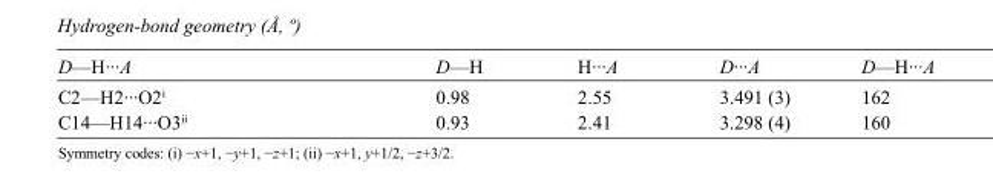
<table><tbody><tr><td>D—H···A</td><td>D—H</td><td>H···A</td><td>D···A</td><td>D—H···A</td></tr><tr><td>C2—H2···O2<sup>i</sup></td><td>0.98</td><td>2.55</td><td>3.491 (3)</td><td>162</td></tr><tr><td>C14—H14···O3<sup>ii</sup></td><td>0.93</td><td>2.41</td><td>3.298 (4)</td><td>160</td></tr></tbody></table>